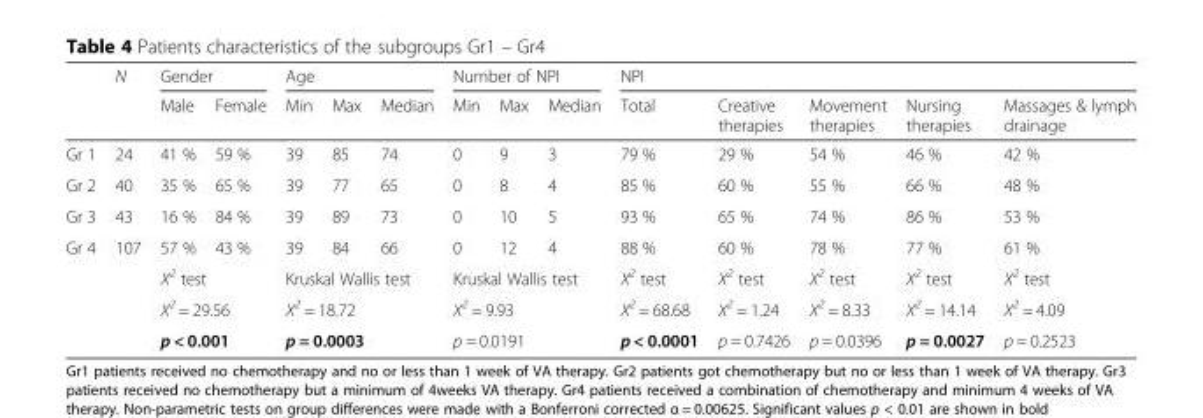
<table><thead><tr><td rowspan="2"></td><td rowspan="2">N</td><td colspan="2">Gender</td><td colspan="3">Age</td><td colspan="3">Number of NPI</td><td colspan="5">NPI</td></tr><tr><td>Male</td><td>Female</td><td>Min</td><td>Max</td><td>Median</td><td>Min</td><td>Max</td><td>Median</td><td>Total</td><td>Creative therapies</td><td>Movement therapies</td><td>Nursing therapies</td><td>Massages &amp; lymph drainage</td></tr></thead><tbody><tr><td>Gr 1</td><td>24</td><td>41 %</td><td>59 %</td><td>39</td><td>85</td><td>74</td><td>0</td><td>9</td><td>3</td><td>79 %</td><td>29 %</td><td>54 %</td><td>46 %</td><td>42 %</td></tr><tr><td>Gr 2</td><td>40</td><td>35 %</td><td>65 %</td><td>39</td><td>77</td><td>65</td><td>0</td><td>8</td><td>4</td><td>85 %</td><td>60 %</td><td>55 %</td><td>66 %</td><td>48 %</td></tr><tr><td>Gr 3</td><td>43</td><td>16 %</td><td>84 %</td><td>39</td><td>89</td><td>73</td><td>0</td><td>10</td><td>5</td><td>93 %</td><td>65 %</td><td>74 %</td><td>86 %</td><td>53 %</td></tr><tr><td rowspan="4">Gr 4</td><td>107</td><td>57 %</td><td>43 %</td><td>39</td><td>84</td><td>66</td><td>0</td><td>12</td><td>4</td><td>88 %</td><td>60 %</td><td>78 %</td><td>77 %</td><td>61 %</td></tr><tr><td></td><td colspan="2">X<sup>2</sup> test</td><td colspan="3">Kruskal Wallis test</td><td colspan="3">Kruskal Wallis test</td><td>X<sup>2</sup> test</td><td>X<sup>2</sup> test</td><td>X<sup>2</sup> test</td><td>X<sup>2</sup> test</td><td>X<sup>2</sup> test</td></tr><tr><td></td><td colspan="2">X<sup>2</sup> = 29.56</td><td colspan="3">X<sup>2</sup> = 18.72</td><td colspan="3">X<sup>2</sup> = 9.93</td><td>X<sup>2</sup> = 68.68</td><td>X<sup>2</sup> = 1.24</td><td>X<sup>2</sup> = 8.33</td><td>X<sup>2</sup> = 14.14</td><td>X<sup>2</sup> = 4.09</td></tr><tr><td></td><td colspan="2">p &lt; 0.001</td><td colspan="3">p = 0.0003</td><td colspan="3">p = 0.0191</td><td>p &lt; 0.0001</td><td>p = 0.7426</td><td>p = 0.0396</td><td>p = 0.0027</td><td>p = 0.2523</td></tr></tbody></table>